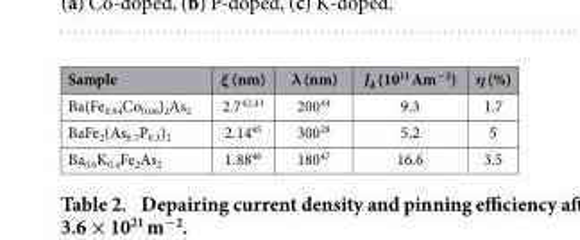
<table><thead><tr><td>Sample</td><td>ξ (nm)</td><td>λ (nm)</td><td>J<sub>d</sub> (10<sup>11</sup> Am<sup>−2</sup>)</td><td>η (%)</td></tr></thead><tbody><tr><td>Ba(Fe<sub>0.94</sub>Co<sub>0.06</sub>)<sub>2</sub>As<sub>2</sub></td><td>2.7<sup>42</sup>,<sup>43</sup></td><td>200<sup>44</sup></td><td>9.3</td><td>1.7</td></tr><tr><td>BaFe<sub>2</sub>(As<sub>0.7</sub>P<sub>0.3</sub>)<sub>2</sub></td><td>2.14<sup>45</sup></td><td>300<sup>28</sup></td><td>5.2</td><td>5</td></tr><tr><td>Ba<sub>0.6</sub>K<sub>0.4</sub>Fe<sub>2</sub>As<sub>2</sub></td><td>1.88<sup>46</sup></td><td>180<sup>47</sup></td><td>16.6</td><td>3.5</td></tr></tbody></table>